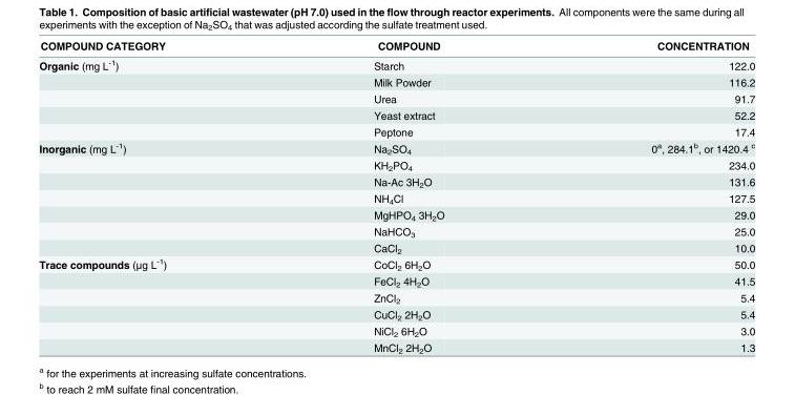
<table><thead><tr><td>COMPOUND CATEGORY</td><td>COMPOUND</td><td>CONCENTRATION</td></tr></thead><tbody><tr><td rowspan="5">Organic (mg L<sup>-1</sup>)</td><td>Starch</td><td>122.0</td></tr><tr><td>Milk Powder</td><td>116.2</td></tr><tr><td>Urea</td><td>91.7</td></tr><tr><td>Yeast extract</td><td>52.2</td></tr><tr><td>Peptone</td><td>17.4</td></tr><tr><td rowspan="7">Inorganic (mg L<sup>-1</sup>)</td><td>Na<sub>2</sub>SO<sub>4</sub></td><td>0<sup>a</sup>, 284.1<sup>b</sup>, or 1420.4 <sup>c</sup></td></tr><tr><td>KH<sub>2</sub>PO<sub>4</sub></td><td>234.0</td></tr><tr><td>Na-Ac 3H<sub>2</sub>O</td><td>131.6</td></tr><tr><td>NH<sub>4</sub>Cl</td><td>127.5</td></tr><tr><td>MgHPO<sub>4</sub> 3H<sub>2</sub>O</td><td>29.0</td></tr><tr><td>NaHCO<sub>3</sub></td><td>25.0</td></tr><tr><td>CaCl<sub>2</sub></td><td>10.0</td></tr><tr><td rowspan="6">Trace compounds (μg L<sup>-1</sup>)</td><td>CoCl<sub>2</sub> 6H<sub>2</sub>O</td><td>50.0</td></tr><tr><td>FeCl<sub>2</sub> 4H<sub>2</sub>O</td><td>41.5</td></tr><tr><td>ZnCl<sub>2</sub></td><td>5.4</td></tr><tr><td>CuCl<sub>2</sub> 2H<sub>2</sub>O</td><td>5.4</td></tr><tr><td>NiCl<sub>2</sub> 6H<sub>2</sub>O</td><td>3.0</td></tr><tr><td>MnCl<sub>2</sub> 2H<sub>2</sub>O</td><td>1.3</td></tr></tbody></table>